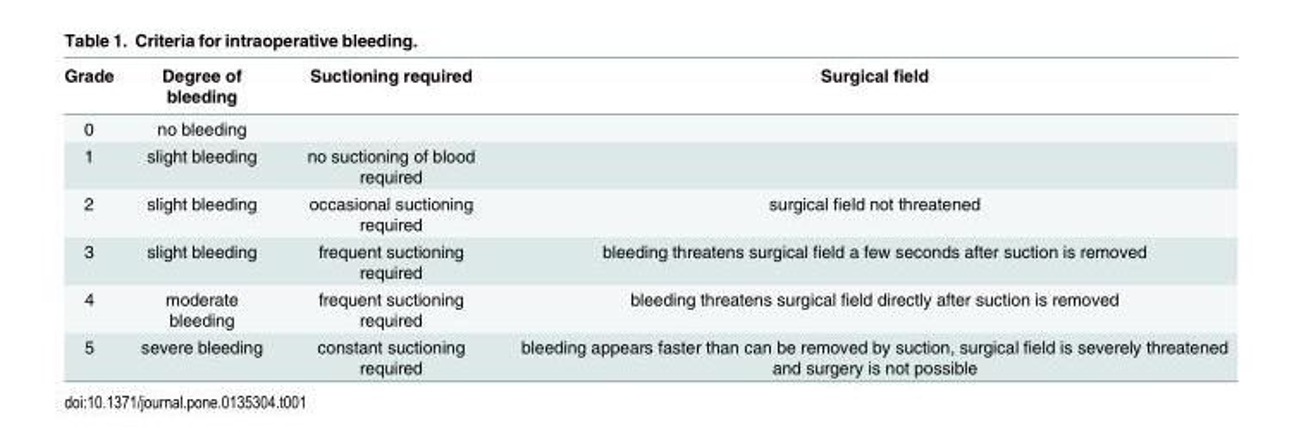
<table><thead><tr><td>Grade</td><td>Degree of bleeding</td><td>Suctioning required</td><td>Surgical field</td></tr></thead><tbody><tr><td>0</td><td>no bleeding</td><td></td><td></td></tr><tr><td>1</td><td>slight bleeding</td><td>no suctioning of blood required</td><td></td></tr><tr><td>2</td><td>slight bleeding</td><td>occasional suctioning required</td><td>surgical field not threatened</td></tr><tr><td>3</td><td>slight bleeding</td><td>frequent suctioning required</td><td>bleeding threatens surgical field a few seconds after suction is removed</td></tr><tr><td>4</td><td>moderate bleeding</td><td>frequent suctioning required</td><td>bleeding threatens surgical field directly after suction is removed</td></tr><tr><td>5</td><td>severe bleeding</td><td>constant suctioning required</td><td>bleeding appears faster than can be removed by suction, surgical field is severely threatened and surgery is not possible</td></tr></tbody></table>